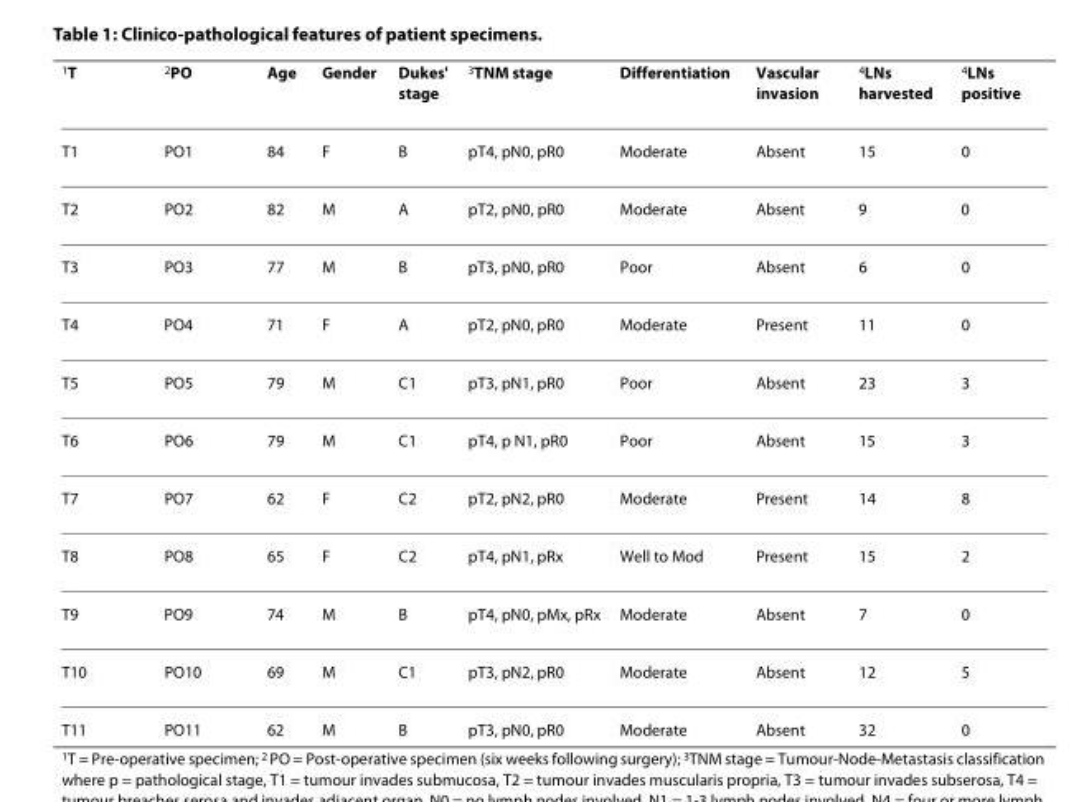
<table><thead><tr><td><sup>1</sup>T</td><td><sup>2</sup>PO</td><td>Age</td><td>Gender</td><td>Dukes&#x27; stage</td><td><sup>3</sup>TNM stage</td><td>Differentiation</td><td>Vascular invasion</td><td><sup>4</sup>LNs harvested</td><td><sup>4</sup>LNs positive</td></tr></thead><tbody><tr><td>T1</td><td>PO1</td><td>84</td><td>F</td><td>B</td><td>pT4, pN0, pR0</td><td>Moderate</td><td>Absent</td><td>15</td><td>0</td></tr><tr><td>T2</td><td>PO2</td><td>82</td><td>M</td><td>A</td><td>pT2, pN0, pR0</td><td>Moderate</td><td>Absent</td><td>9</td><td>0</td></tr><tr><td>T3</td><td>PO3</td><td>77</td><td>M</td><td>B</td><td>pT3, pN0, pR0</td><td>Poor</td><td>Absent</td><td>6</td><td>0</td></tr><tr><td>T4</td><td>PO4</td><td>71</td><td>F</td><td>A</td><td>pT2, pN0, pR0</td><td>Moderate</td><td>Present</td><td>11</td><td>0</td></tr><tr><td>T5</td><td>PO5</td><td>79</td><td>M</td><td>C1</td><td>pT3, pN1, pR0</td><td>Poor</td><td>Absent</td><td>23</td><td>3</td></tr><tr><td>T6</td><td>PO6</td><td>79</td><td>M</td><td>C1</td><td>pT4, p N1, pR0</td><td>Poor</td><td>Absent</td><td>15</td><td>3</td></tr><tr><td>T7</td><td>PO7</td><td>62</td><td>F</td><td>C2</td><td>pT2, pN2, pR0</td><td>Moderate</td><td>Present</td><td>14</td><td>8</td></tr><tr><td>T8</td><td>PO8</td><td>65</td><td>F</td><td>C2</td><td>pT4, pN1, pRx</td><td>Well to Mod</td><td>Present</td><td>15</td><td>2</td></tr><tr><td>T9</td><td>PO9</td><td>74</td><td>M</td><td>B</td><td>pT4, pN0, pMx, pRx</td><td>Moderate</td><td>Absent</td><td>7</td><td>0</td></tr><tr><td>T10</td><td>PO10</td><td>69</td><td>M</td><td>C1</td><td>pT3, pN2, pR0</td><td>Moderate</td><td>Absent</td><td>12</td><td>5</td></tr><tr><td>T11</td><td>PO11</td><td>62</td><td>M</td><td>B</td><td>pT3, pN0, pR0</td><td>Moderate</td><td>Absent</td><td>32</td><td>0</td></tr></tbody></table>